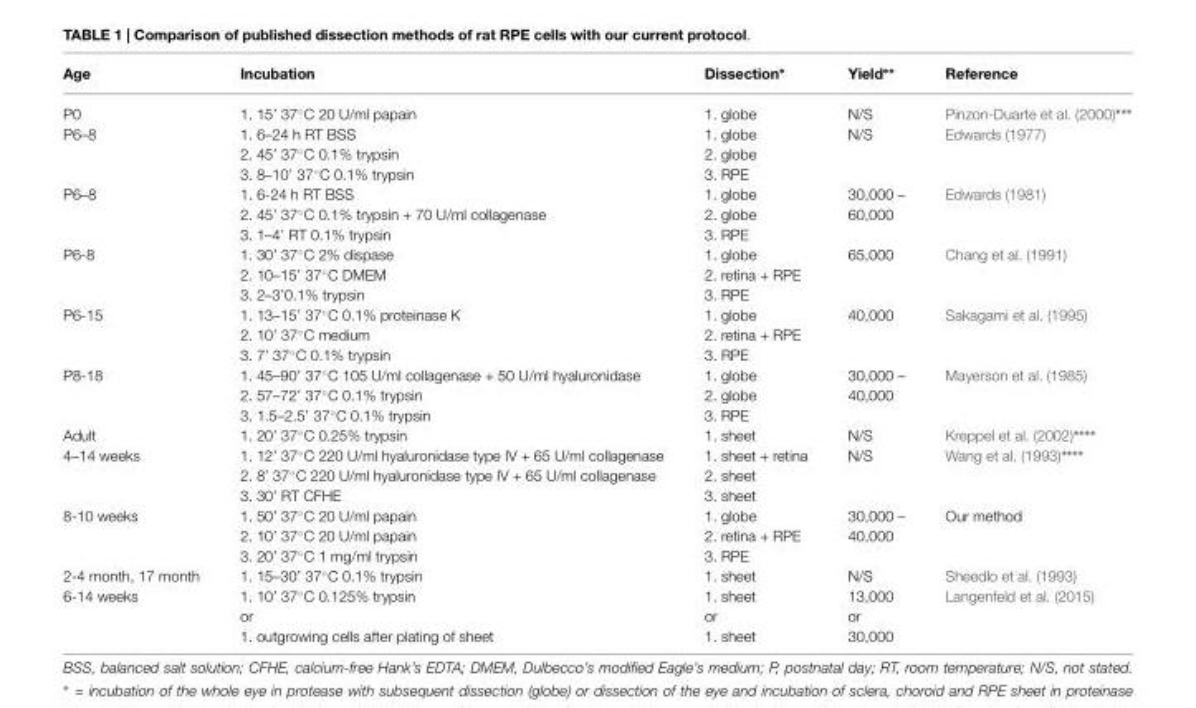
<table><thead><tr><td>Age</td><td>Incubation</td><td>Dissection∗</td><td>Yield∗∗</td><td>Reference</td></tr></thead><tbody><tr><td>P0</td><td>1. 15’ 37◦C 20 U/ml papain</td><td>1. globe</td><td>N/S</td><td>Pinzon-Duarte et al. (2000)∗∗∗</td></tr><tr><td rowspan="3">P6–8</td><td>1. 6–24 h RT BSS</td><td>1. globe</td><td>N/S</td><td>Edwards (1977)</td></tr><tr><td>2. 45’ 37◦C 0.1% trypsin</td><td>2. globe</td><td></td><td></td></tr><tr><td>3. 8–10’ 37◦C 0.1% trypsin</td><td>3. RPE</td><td></td><td></td></tr><tr><td rowspan="3">P6–8</td><td>1. 6-24 h RT BSS</td><td>1. globe</td><td>30,000 –</td><td>Edwards (1981)</td></tr><tr><td>2. 45’ 37◦C 0.1% trypsin + 70 U/ml collagenase</td><td>2. globe</td><td>60,000</td><td></td></tr><tr><td>3. 1–4’ RT 0.1% trypsin</td><td>3. RPE</td><td></td><td></td></tr><tr><td rowspan="3">P6-8</td><td>1. 30’ 37◦C 2% dispase</td><td>1. globe</td><td>65,000</td><td>Chang et al. (1991)</td></tr><tr><td>2. 10–15’ 37◦C DMEM</td><td>2. retina + RPE</td><td></td><td></td></tr><tr><td>3. 2–3’0.1% trypsin</td><td>3. RPE</td><td></td><td></td></tr><tr><td rowspan="3">P6-15</td><td>1. 13–15’ 37◦C 0.1% proteinase K</td><td>1. globe</td><td>40,000</td><td>Sakagami et al. (1995)</td></tr><tr><td>2. 10’ 37◦C medium</td><td>2. retina + RPE</td><td></td><td></td></tr><tr><td>3. 7’ 37◦C 0.1% trypsin</td><td>3. RPE</td><td></td><td></td></tr><tr><td rowspan="3">P8-18</td><td>1. 45–90’ 37◦C 105 U/ml collagenase + 50 U/ml hyaluronidase</td><td>1. globe</td><td>30,000 –</td><td>Mayerson et al. (1985)</td></tr><tr><td>2. 57–72’ 37◦C 0.1% trypsin</td><td>2. globe</td><td>40,000</td><td></td></tr><tr><td>3. 1.5–2.5’ 37◦C 0.1% trypsin</td><td>3. RPE</td><td></td><td></td></tr><tr><td>Adult</td><td>1. 20’ 37◦C 0.25% trypsin</td><td>1. sheet</td><td>N/S</td><td>Kreppel et al. (2002)∗∗∗∗</td></tr><tr><td rowspan="3">4–14 weeks</td><td>1. 12’ 37◦C 220 U/ml hyaluronidase type IV + 65 U/ml collagenase</td><td>1. sheet + retina</td><td>N/S</td><td>Wang et al. (1993)∗∗∗∗</td></tr><tr><td>2. 8’ 37◦C 220 U/ml hyaluronidase type IV + 65 U/ml collagenase</td><td>2. sheet</td><td></td><td></td></tr><tr><td>3. 30’ RT CFHE</td><td>3. sheet</td><td></td><td></td></tr><tr><td rowspan="3">8-10 weeks</td><td>1. 50’ 37◦C 20 U/ml papain</td><td>1. globe</td><td>30,000 –</td><td>Our method</td></tr><tr><td>2. 10’ 37◦C 20 U/ml papain</td><td>2. retina + RPE</td><td>40,000</td><td></td></tr><tr><td>3. 20’ 37◦C 1 mg/ml trypsin</td><td>3. RPE</td><td></td><td></td></tr><tr><td>2-4 month, 17 month</td><td>1. 15–30’ 37◦C 0.1% trypsin</td><td>1. sheet</td><td>N/S</td><td>Sheedlo et al. (1993)</td></tr><tr><td rowspan="3">6-14 weeks</td><td>1. 10’ 37◦C 0.125% trypsin</td><td>1. sheet</td><td>13,000</td><td>Langenfeld et al. (2015)</td></tr><tr><td>or</td><td>or</td><td>or</td><td></td></tr><tr><td>1. outgrowing cells after plating of sheet</td><td>1. sheet</td><td>30,000</td><td></td></tr></tbody></table>